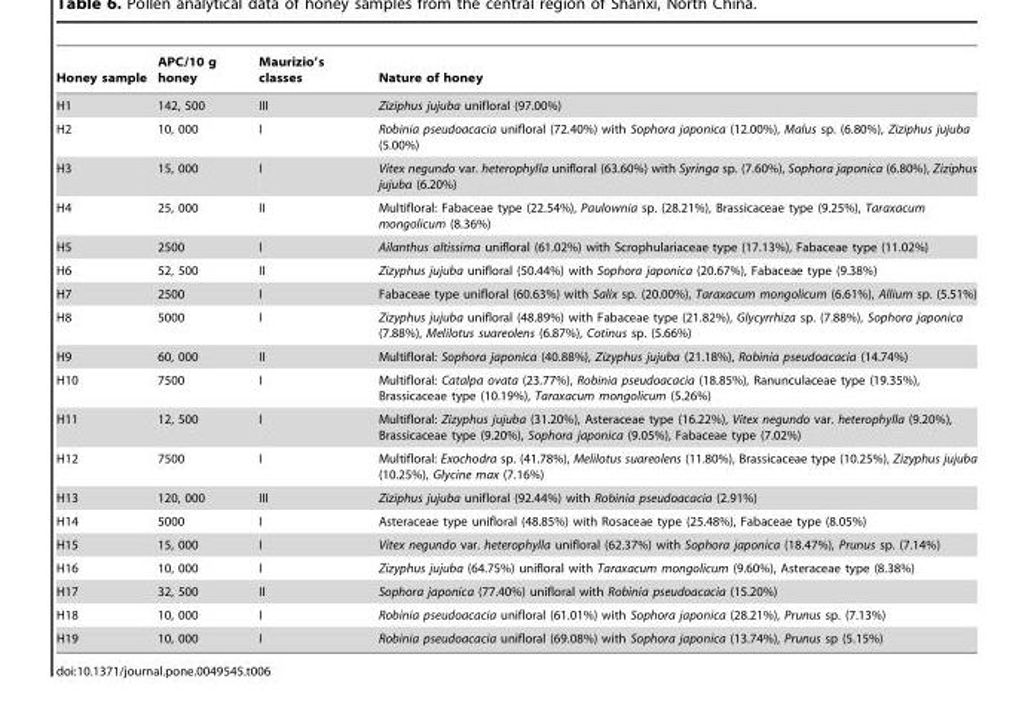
<table><thead><tr><td>Honey sample</td><td>APC/10 g honey</td><td>Maurizio’s classes</td><td>Nature of honey</td></tr></thead><tbody><tr><td>H1</td><td>142, 500</td><td>III</td><td>Ziziphus jujuba unifloral (97.00%)</td></tr><tr><td>H2</td><td>10, 000</td><td>I</td><td>Robinia pseudoacacia unifloral (72.40%) with Sophora japonica (12.00%), Malus sp. (6.80%), Ziziphus jujuba (5.00%)</td></tr><tr><td>H3</td><td>15, 000</td><td>I</td><td>Vitex negundo var. heterophylla unifloral (63.60%) with Syringa sp. (7.60%), Sophora japonica (6.80%), Ziziphus jujuba (6.20%)</td></tr><tr><td>H4</td><td>25, 000</td><td>II</td><td>Multifloral: Fabaceae type (22.54%), Paulownia sp. (28.21%), Brassicaceae type (9.25%), Taraxacum mongolicum (8.36%)</td></tr><tr><td>H5</td><td>2500</td><td>I</td><td>Ailanthus altissima unifloral (61.02%) with Scrophulariaceae type (17.13%), Fabaceae type (11.02%)</td></tr><tr><td>H6</td><td>52, 500</td><td>II</td><td>Zizyphus jujuba unifloral (50.44%) with Sophora japonica (20.67%), Fabaceae type (9.38%)</td></tr><tr><td>H7</td><td>2500</td><td>I</td><td>Fabaceae type unifloral (60.63%) with Salix sp. (20.00%), Taraxacum mongolicum (6.61%), Allium sp. (5.51%)</td></tr><tr><td>H8</td><td>5000</td><td>I</td><td>Zizyphus jujuba unifloral (48.89%) with Fabaceae type (21.82%), Glycyrrhiza sp. (7.88%), Sophora japonica (7.88%), Melilotus suareolens (6.87%), Cotinus sp. (5.66%)</td></tr><tr><td>H9</td><td>60, 000</td><td>II</td><td>Multifloral: Sophora japonica (40.88%), Zizyphus jujuba (21.18%), Robinia pseudoacacia (14.74%)</td></tr><tr><td>H10</td><td>7500</td><td>I</td><td>Multifloral: Catalpa ovata (23.77%), Robinia pseudoacacia (18.85%), Ranunculaceae type (19.35%), Brassicaceae type (10.19%), Taraxacum mongolicum (5.26%)</td></tr><tr><td>H11</td><td>12, 500</td><td>I</td><td>Multifloral: Zizyphus jujuba (31.20%), Asteraceae type (16.22%), Vitex negundo var. heterophylla (9.20%), Brassicaceae type (9.20%), Sophora japonica (9.05%), Fabaceae type (7.02%)</td></tr><tr><td>H12</td><td>7500</td><td>I</td><td>Multifloral: Exochodra sp. (41.78%), Melilotus suareolens (11.80%), Brassicaceae type (10.25%), Zizyphus jujuba (10.25%), Glycine max (7.16%)</td></tr><tr><td>H13</td><td>120, 000</td><td>III</td><td>Ziziphus jujuba unifloral (92.44%) with Robinia pseudoacacia (2.91%)</td></tr><tr><td>H14</td><td>5000</td><td>I</td><td>Asteraceae type unifloral (48.85%) with Rosaceae type (25.48%), Fabaceae type (8.05%)</td></tr><tr><td>H15</td><td>15, 000</td><td>I</td><td>Vitex negundo var. heterophylla unifloral (62.37%) with Sophora japonica (18.47%), Prunus sp. (7.14%)</td></tr><tr><td>H16</td><td>10, 000</td><td>I</td><td>Zizyphus jujuba (64.75%) unifloral with Taraxacum mongolicum (9.60%), Asteraceae type (8.38%)</td></tr><tr><td>H17</td><td>32, 500</td><td>II</td><td>Sophora japonica (77.40%) unifloral with Robinia pseudoacacia (15.20%)</td></tr><tr><td>H18</td><td>10, 000</td><td>I</td><td>Robinia pseudoacacia unifloral (61.01%) with Sophora japonica (28.21%), Prunus sp. (7.13%)</td></tr><tr><td>H19</td><td>10, 000</td><td>I</td><td>Robinia pseudoacacia unifloral (69.08%) with Sophora japonica (13.74%), Prunus sp (5.15%)</td></tr></tbody></table>